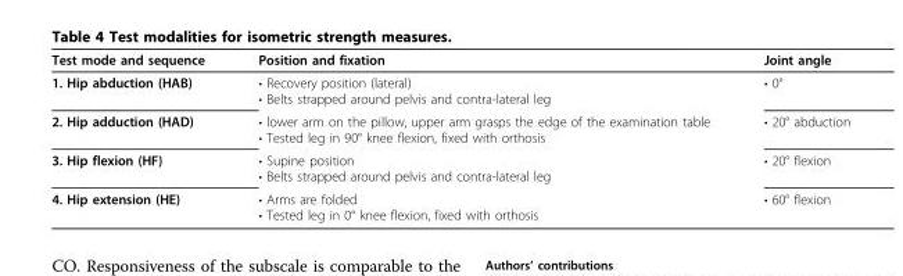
<table><thead><tr><td>Test mode and sequence</td><td>Position and fixation</td><td>Joint angle</td></tr></thead><tbody><tr><td>1. Hip abduction (HAB)</td><td>• Recovery position (lateral) • Belts strapped around pelvis and contra-lateral leg</td><td>• 0°</td></tr><tr><td>2. Hip adduction (HAD)</td><td>• lower arm on the pillow, upper arm grasps the edge of the examination table • Tested leg in 90° knee flexion, fixed with orthosis</td><td>• 20° abduction</td></tr><tr><td>3. Hip flexion (HF)</td><td>• Supine position • Belts strapped around pelvis and contra-lateral leg</td><td>• 20° flexion</td></tr><tr><td>4. Hip extension (HE)</td><td>• Arms are folded • Tested leg in 0° knee flexion, fixed with orthosis</td><td>• 60° flexion</td></tr></tbody></table>